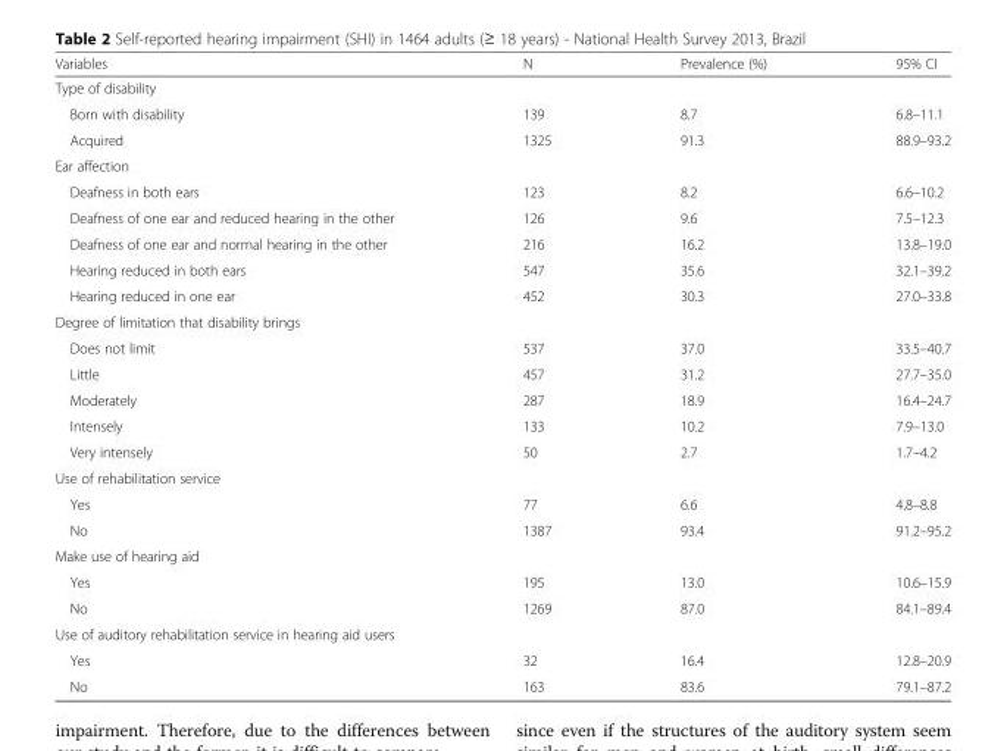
<table><thead><tr><td>Variables</td><td>N</td><td>Prevalence (%)</td><td>95% CI</td></tr></thead><tbody><tr><td colspan="4">Type of disability</td></tr><tr><td>Born with disability</td><td>139</td><td>8.7</td><td>6.8–11.1</td></tr><tr><td>Acquired</td><td>1325</td><td>91.3</td><td>88.9–93.2</td></tr><tr><td colspan="4">Ear affection</td></tr><tr><td>Deafness in both ears</td><td>123</td><td>8.2</td><td>6.6–10.2</td></tr><tr><td>Deafness of one ear and reduced hearing in the other</td><td>126</td><td>9.6</td><td>7.5–12.3</td></tr><tr><td>Deafness of one ear and normal hearing in the other</td><td>216</td><td>16.2</td><td>13.8–19.0</td></tr><tr><td>Hearing reduced in both ears</td><td>547</td><td>35.6</td><td>32.1–39.2</td></tr><tr><td>Hearing reduced in one ear</td><td>452</td><td>30.3</td><td>27.0–33.8</td></tr><tr><td colspan="4">Degree of limitation that disability brings</td></tr><tr><td>Does not limit</td><td>537</td><td>37.0</td><td>33.5–40.7</td></tr><tr><td>Little</td><td>457</td><td>31.2</td><td>27.7–35.0</td></tr><tr><td>Moderately</td><td>287</td><td>18.9</td><td>16.4–24.7</td></tr><tr><td>Intensely</td><td>133</td><td>10.2</td><td>7.9–13.0</td></tr><tr><td>Very intensely</td><td>50</td><td>2.7</td><td>1.7–4.2</td></tr><tr><td colspan="4">Use of rehabilitation service</td></tr><tr><td>Yes</td><td>77</td><td>6.6</td><td>4.8–8.8</td></tr><tr><td>No</td><td>1387</td><td>93.4</td><td>91.2–95.2</td></tr><tr><td colspan="4">Make use of hearing aid</td></tr><tr><td>Yes</td><td>195</td><td>13.0</td><td>10.6–15.9</td></tr><tr><td>No</td><td>1269</td><td>87.0</td><td>84.1–89.4</td></tr><tr><td colspan="4">Use of auditory rehabilitation service in hearing aid users</td></tr><tr><td>Yes</td><td>32</td><td>16.4</td><td>12.8–20.9</td></tr><tr><td>No</td><td>163</td><td>83.6</td><td>79.1–87.2</td></tr></tbody></table>